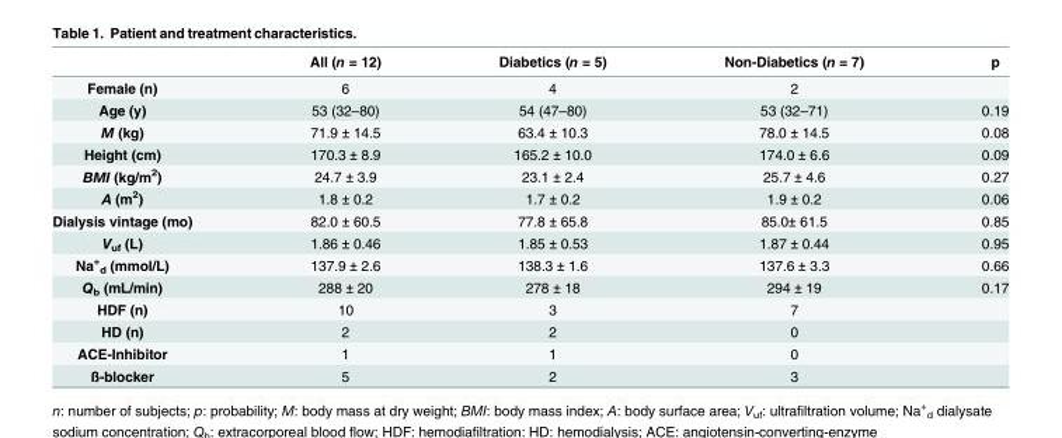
<table><thead><tr><td></td><td>All (n = 12)</td><td>Diabetics (n = 5)</td><td>Non-Diabetics (n = 7)</td><td>p</td></tr></thead><tbody><tr><td>Female (n)</td><td>6</td><td>4</td><td>2</td><td></td></tr><tr><td>Age (y)</td><td>53 (32–80)</td><td>54 (47–80)</td><td>53 (32–71)</td><td>0.19</td></tr><tr><td>M (kg)</td><td>71.9 ± 14.5</td><td>63.4 ± 10.3</td><td>78.0 ± 14.5</td><td>0.08</td></tr><tr><td>Height (cm)</td><td>170.3 ± 8.9</td><td>165.2 ± 10.0</td><td>174.0 ± 6.6</td><td>0.09</td></tr><tr><td>BMI (kg/m<sup>2</sup>)</td><td>24.7 ± 3.9</td><td>23.1 ± 2.4</td><td>25.7 ± 4.6</td><td>0.27</td></tr><tr><td>A (m<sup>2</sup>)</td><td>1.8 ± 0.2</td><td>1.7 ± 0.2</td><td>1.9 ± 0.2</td><td>0.06</td></tr><tr><td>Dialysis vintage (mo)</td><td>82.0 ± 60.5</td><td>77.8 ± 65.8</td><td>85.0± 61.5</td><td>0.85</td></tr><tr><td>V<sub>uf</sub> (L)</td><td>1.86 ± 0.46</td><td>1.85 ± 0.53</td><td>1.87 ± 0.44</td><td>0.95</td></tr><tr><td>Na<sup>+</sup> <sub>d</sub> (mmol/L)</td><td>137.9 ± 2.6</td><td>138.3 ± 1.6</td><td>137.6 ± 3.3</td><td>0.66</td></tr><tr><td>Q<sub>b</sub> (mL/min)</td><td>288 ± 20</td><td>278 ± 18</td><td>294 ± 19</td><td>0.17</td></tr><tr><td>HDF (n)</td><td>10</td><td>3</td><td>7</td><td></td></tr><tr><td>HD (n)</td><td>2</td><td>2</td><td>0</td><td></td></tr><tr><td>ACE-Inhibitor</td><td>1</td><td>1</td><td>0</td><td></td></tr><tr><td>ß-blocker</td><td>5</td><td>2</td><td>3</td><td></td></tr></tbody></table>